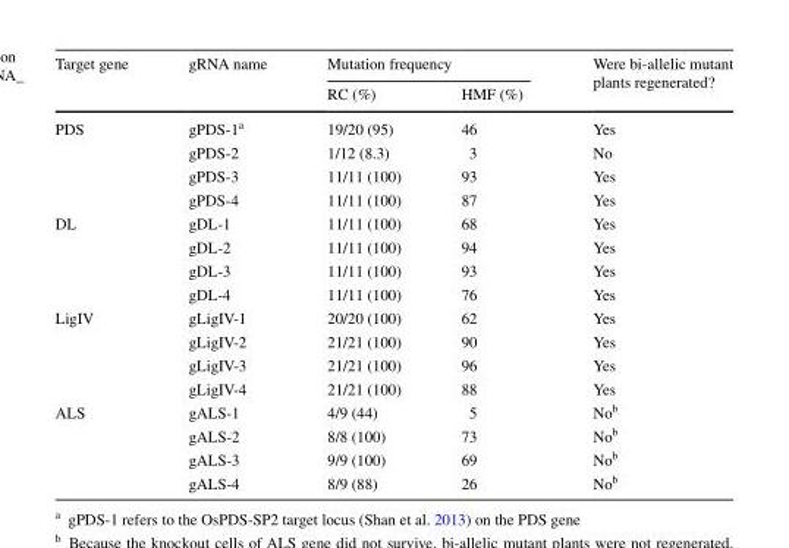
<table><thead><tr><td rowspan="2">Target gene</td><td rowspan="2">gRNA name</td><td colspan="2">Mutation frequency</td><td rowspan="2">Were bi-allelic mutant plants regenerated?</td></tr><tr><td>RC (%)</td><td>HMF (%)</td></tr></thead><tbody><tr><td rowspan="4">PDS</td><td>gPDS-1<sup>a</sup></td><td>19/20 (95)</td><td>46</td><td>Yes</td></tr><tr><td>gPDS-2</td><td>1/12 (8.3)</td><td>3</td><td>No</td></tr><tr><td>gPDS-3</td><td>11/11 (100)</td><td>93</td><td>Yes</td></tr><tr><td>gPDS-4</td><td>11/11 (100)</td><td>87</td><td>Yes</td></tr><tr><td rowspan="4">DL</td><td>gDL-1</td><td>11/11 (100)</td><td>68</td><td>Yes</td></tr><tr><td>gDL-2</td><td>11/11 (100)</td><td>94</td><td>Yes</td></tr><tr><td>gDL-3</td><td>11/11 (100)</td><td>93</td><td>Yes</td></tr><tr><td>gDL-4</td><td>11/11 (100)</td><td>76</td><td>Yes</td></tr><tr><td rowspan="4">LigIV</td><td>gLigIV-1</td><td>20/20 (100)</td><td>62</td><td>Yes</td></tr><tr><td>gLigIV-2</td><td>21/21 (100)</td><td>90</td><td>Yes</td></tr><tr><td>gLigIV-3</td><td>21/21 (100)</td><td>96</td><td>Yes</td></tr><tr><td>gLigIV-4</td><td>21/21 (100)</td><td>88</td><td>Yes</td></tr><tr><td rowspan="4">ALS</td><td>gALS-1</td><td>4/9 (44)</td><td>5</td><td>No<sup>b</sup></td></tr><tr><td>gALS-2</td><td>8/8 (100)</td><td>73</td><td>No<sup>b</sup></td></tr><tr><td>gALS-3</td><td>9/9 (100)</td><td>69</td><td>No<sup>b</sup></td></tr><tr><td>gALS-4</td><td>8/9 (88)</td><td>26</td><td>No<sup>b</sup></td></tr></tbody></table>